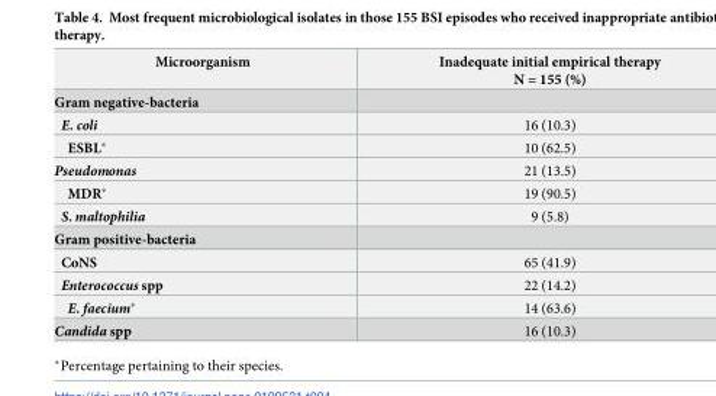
<table><thead><tr><td>Microorganism</td><td>Inadequate initial empirical therapy N = 155 (%)</td></tr></thead><tbody><tr><td colspan="2">Gram negative-bacteria</td></tr><tr><td>E. coli</td><td>16 (10.3)</td></tr><tr><td>ESBL*</td><td>10 (62.5)</td></tr><tr><td>Pseudomonas</td><td>21 (13.5)</td></tr><tr><td>MDR*</td><td>19 (90.5)</td></tr><tr><td>S. maltophilia</td><td>9 (5.8)</td></tr><tr><td colspan="2">Gram positive-bacteria</td></tr><tr><td>CoNS</td><td>65 (41.9)</td></tr><tr><td>Enterococcus spp</td><td>22 (14.2)</td></tr><tr><td>E. faecium*</td><td>14 (63.6)</td></tr><tr><td>Candida spp</td><td>16 (10.3)</td></tr></tbody></table>